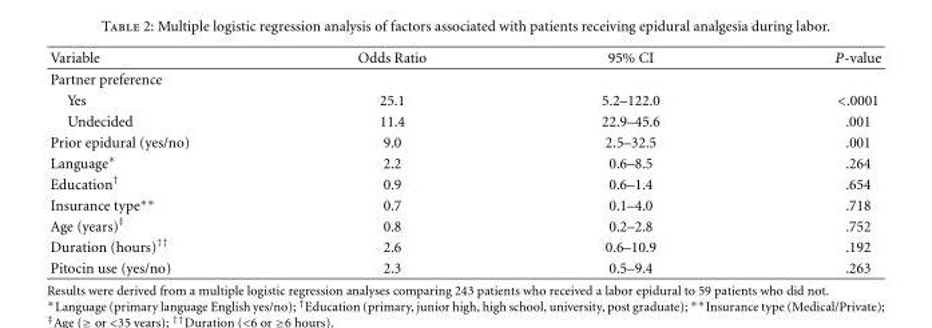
<table><thead><tr><td>Variable</td><td>Odds Ratio</td><td>95% CI</td><td>P-value</td></tr></thead><tbody><tr><td colspan="4">Partner preference</td></tr><tr><td>Yes</td><td>25.1</td><td>5.2–122.0</td><td>&lt;.0001</td></tr><tr><td>Undecided</td><td>11.4</td><td>22.9–45.6</td><td>.001</td></tr><tr><td>Prior epidural (yes/no)</td><td>9.0</td><td>2.5–32.5</td><td>.001</td></tr><tr><td>Language∗</td><td>2.2</td><td>0.6–8.5</td><td>.264</td></tr><tr><td>Education<sup>†</sup></td><td>0.9</td><td>0.6–1.4</td><td>.654</td></tr><tr><td>Insurance type∗∗</td><td>0.7</td><td>0.1–4.0</td><td>.718</td></tr><tr><td>Age (years)<sup>‡</sup></td><td>0.8</td><td>0.2–2.8</td><td>.752</td></tr><tr><td>Duration (hours)<sup>††</sup></td><td>2.6</td><td>0.6–10.9</td><td>.192</td></tr><tr><td>Pitocin use (yes/no)</td><td>2.3</td><td>0.5–9.4</td><td>.263</td></tr></tbody></table>